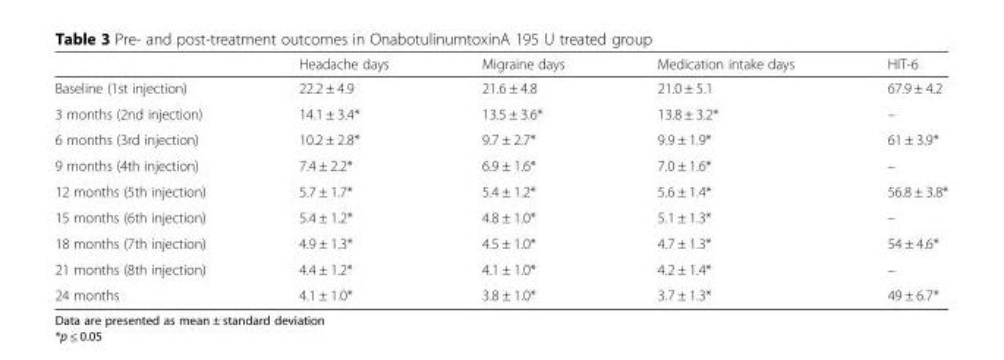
<table><thead><tr><td></td><td>Headache days</td><td>Migraine days</td><td>Medication intake days</td><td>HIT-6</td></tr></thead><tbody><tr><td>Baseline (1st injection)</td><td>22.2 ± 4.9</td><td>21.6 ± 4.8</td><td>21.0 ± 5.1</td><td>67.9 ± 4.2</td></tr><tr><td>3 months (2nd injection)</td><td>14.1 ± 3.4*</td><td>13.5 ± 3.6*</td><td>13.8 ± 3.2*</td><td>–</td></tr><tr><td>6 months (3rd injection)</td><td>10.2 ± 2.8*</td><td>9.7 ± 2.7*</td><td>9.9 ± 1.9*</td><td>61 ± 3.9*</td></tr><tr><td>9 months (4th injection)</td><td>7.4 ± 2.2*</td><td>6.9 ± 1.6*</td><td>7.0 ± 1.6*</td><td>–</td></tr><tr><td>12 months (5th injection)</td><td>5.7 ± 1.7*</td><td>5.4 ± 1.2*</td><td>5.6 ± 1.4*</td><td>56.8 ± 3.8*</td></tr><tr><td>15 months (6th injection)</td><td>5.4 ± 1.2*</td><td>4.8 ± 1.0*</td><td>5.1 ± 1.3*</td><td>–</td></tr><tr><td>18 months (7th injection)</td><td>4.9 ± 1.3*</td><td>4.5 ± 1.0*</td><td>4.7 ± 1.3*</td><td>54 ± 4.6*</td></tr><tr><td>21 months (8th injection)</td><td>4.4 ± 1.2*</td><td>4.1 ± 1.0*</td><td>4.2 ± 1.4*</td><td>–</td></tr><tr><td>24 months</td><td>4.1 ± 1.0*</td><td>3.8 ± 1.0*</td><td>3.7 ± 1.3*</td><td>49 ± 6.7*</td></tr></tbody></table>